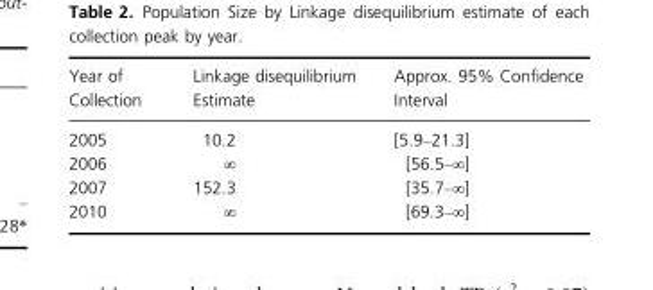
<table><thead><tr><td>Year of Collection</td><td>Linkage disequilibrium Estimate</td><td>Approx. 95% Confidence Interval</td></tr></thead><tbody><tr><td>2005</td><td>10.2</td><td>[5.9–21.3]</td></tr><tr><td>2006</td><td>∞</td><td>[56.5–∞]</td></tr><tr><td>2007</td><td>152.3</td><td>[35.7–∞]</td></tr><tr><td>2010</td><td>∞</td><td>[69.3–∞]</td></tr></tbody></table>